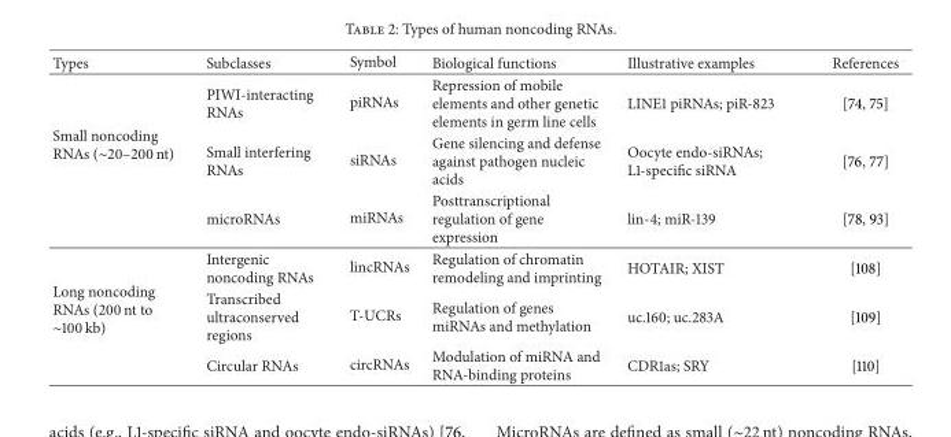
<table><thead><tr><td>Types</td><td>Subclasses</td><td>Symbol</td><td>Biological functions</td><td>Illustrative examples</td><td>References</td></tr></thead><tbody><tr><td rowspan="3">Small noncoding RNAs (∼20–200 nt)</td><td>PIWI-interacting RNAs</td><td>piRNAs</td><td>Repression of mobile elements and other genetic elements in germ line cells</td><td>LINE1 piRNAs; piR-823</td><td>[74, 75]</td></tr><tr><td>Small interfering RNAs</td><td>siRNAs</td><td>Gene silencing and defense against pathogen nucleic acids</td><td>Oocyte endo-siRNAs; L1-specific siRNA</td><td>[76, 77]</td></tr><tr><td>microRNAs</td><td>miRNAs</td><td>Posttranscriptional regulation of gene expression</td><td>lin-4; miR-139</td><td>[78, 93]</td></tr><tr><td rowspan="3">Long noncoding RNAs (200 nt to ∼100 kb)</td><td>Intergenic noncoding RNAs</td><td>lincRNAs</td><td>Regulation of chromatin remodeling and imprinting</td><td>HOTAIR; XIST</td><td>[108]</td></tr><tr><td>Transcribed ultraconserved regions</td><td>T-UCRs</td><td>Regulation of genes miRNAs and methylation</td><td>uc.160; uc.283A</td><td>[109]</td></tr><tr><td>Circular RNAs</td><td>circRNAs</td><td>Modulation of miRNA and RNA-binding proteins</td><td>CDR1as; SRY</td><td>[110]</td></tr></tbody></table>